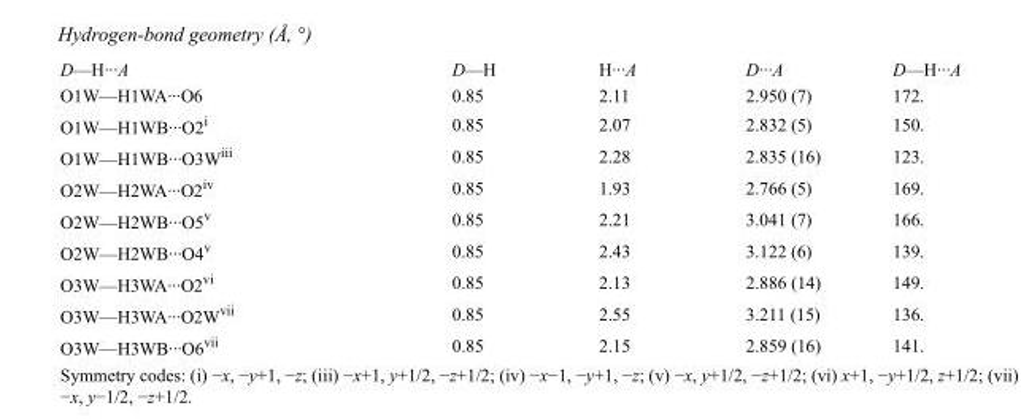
<table><tbody><tr><td>D—H···A</td><td>D—H</td><td>H···A</td><td>D···A</td><td>D—H···A</td></tr><tr><td>O1W—H1WA···O6</td><td>0.85</td><td>2.11</td><td>2.950 (7)</td><td>172.</td></tr><tr><td>O1W—H1WB···O2<sup>i</sup></td><td>0.85</td><td>2.07</td><td>2.832 (5)</td><td>150.</td></tr><tr><td>O1W—H1WB···O3W<sup>iii</sup></td><td>0.85</td><td>2.28</td><td>2.835 (16)</td><td>123.</td></tr><tr><td>O2W—H2WA···O2<sup>iv</sup></td><td>0.85</td><td>1.93</td><td>2.766 (5)</td><td>169.</td></tr><tr><td>O2W—H2WB···O5<sup>v</sup></td><td>0.85</td><td>2.21</td><td>3.041 (7)</td><td>166.</td></tr><tr><td>O2W—H2WB···O4<sup>v</sup></td><td>0.85</td><td>2.43</td><td>3.122 (6)</td><td>139.</td></tr><tr><td>O3W—H3WA···O2<sup>vi</sup></td><td>0.85</td><td>2.13</td><td>2.886 (14)</td><td>149.</td></tr><tr><td>O3W—H3WA···O2W<sup>vii</sup></td><td>0.85</td><td>2.55</td><td>3.211 (15)</td><td>136.</td></tr><tr><td>O3W—H3WB···O6<sup>vii</sup></td><td>0.85</td><td>2.15</td><td>2.859 (16)</td><td>141.</td></tr></tbody></table>